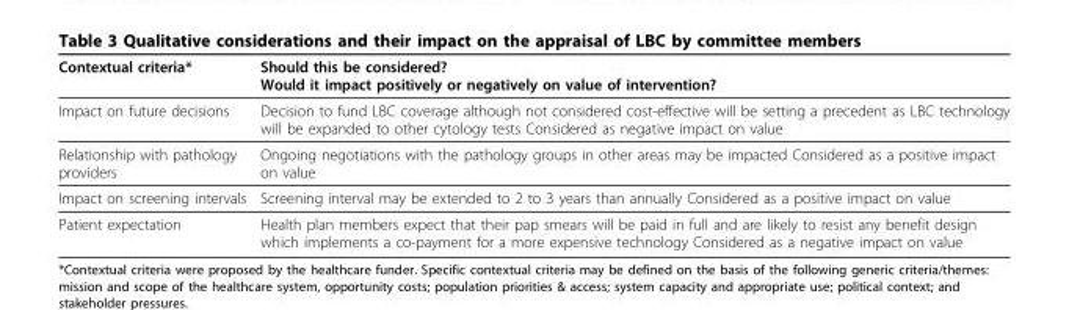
<table><thead><tr><td>Contextual criteria*</td><td>Should this be considered? Would it impact positively or negatively on value of intervention?</td></tr></thead><tbody><tr><td>Impact on future decisions</td><td>Decision to fund LBC coverage although not considered cost-effective will be setting a precedent as LBC technology will be expanded to other cytology tests Considered as negative impact on value</td></tr><tr><td>Relationship with pathology providers</td><td>Ongoing negotiations with the pathology groups in other areas may be impacted Considered as a positive impact on value</td></tr><tr><td>Impact on screening intervals</td><td>Screening interval may be extended to 2 to 3 years than annually Considered as a positive impact on value</td></tr><tr><td>Patient expectation</td><td>Health plan members expect that their pap smears will be paid in full and are likely to resist any benefit design which implements a co-payment for a more expensive technology Considered as a negative impact on value</td></tr></tbody></table>